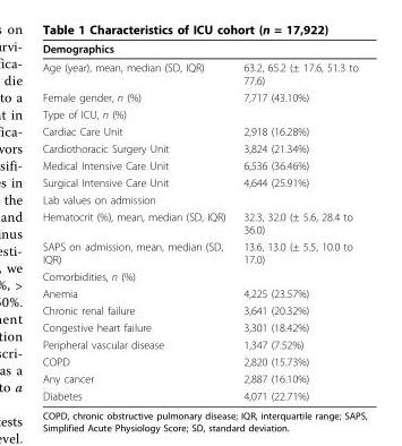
<table><thead><tr><td>Demographics</td><td></td></tr></thead><tbody><tr><td>Age (year), mean, median (SD, IQR)</td><td>63.2, 65.2 (± 17.6, 51.3 to 77.6)</td></tr><tr><td>Female gender, n (%)</td><td>7,717 (43.10%)</td></tr><tr><td colspan="2">Type of ICU, n (%)</td></tr><tr><td>Cardiac Care Unit</td><td>2,918 (16.28%)</td></tr><tr><td>Cardiothoracic Surgery Unit</td><td>3,824 (21.34%)</td></tr><tr><td>Medical Intensive Care Unit</td><td>6,536 (36.46%)</td></tr><tr><td>Surgical Intensive Care Unit</td><td>4,644 (25.91%)</td></tr><tr><td colspan="2">Lab values on admission</td></tr><tr><td>Hematocrit (%), mean, median (SD, IQR)</td><td>32.3, 32.0 (± 5.6, 28.4 to 36.0)</td></tr><tr><td>SAPS on admission, mean, median (SD, IQR)</td><td>13.6, 13.0 (± 5.5, 10.0 to 17.0)</td></tr><tr><td colspan="2">Comorbidities, n (%)</td></tr><tr><td>Anemia</td><td>4,225 (23.57%)</td></tr><tr><td>Chronic renal failure</td><td>3,641 (20.32%)</td></tr><tr><td>Congestive heart failure</td><td>3,301 (18.42%)</td></tr><tr><td>Peripheral vascular disease</td><td>1,347 (7.52%)</td></tr><tr><td>COPD</td><td>2,820 (15.73%)</td></tr><tr><td>Any cancer</td><td>2,887 (16.10%)</td></tr><tr><td>Diabetes</td><td>4,071 (22.71%)</td></tr></tbody></table>